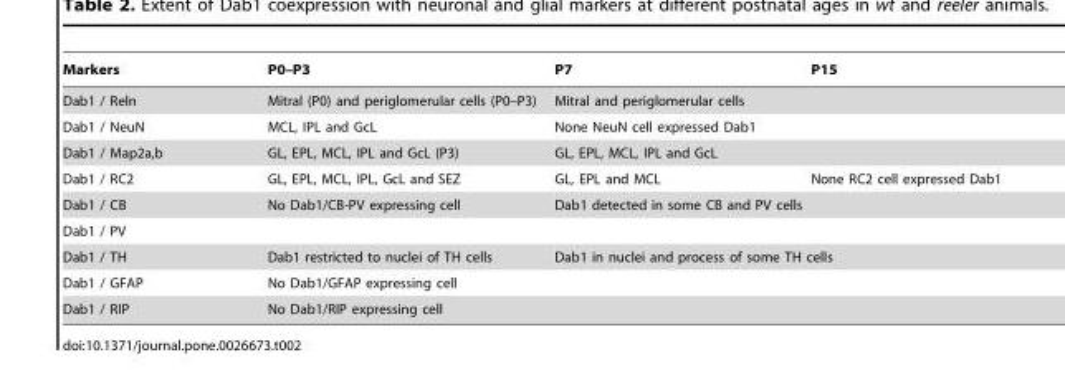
<table><thead><tr><td>Markers</td><td>P0–P3</td><td>P7</td><td>P15</td></tr></thead><tbody><tr><td>Dab1 / Reln</td><td>Mitral (P0) and periglomerular cells (P0–P3)</td><td colspan="2">Mitral and periglomerular cells</td></tr><tr><td>Dab1 / NeuN</td><td>MCL, IPL and GcL</td><td colspan="2">None NeuN cell expressed Dab1</td></tr><tr><td>Dab1 / Map2a,b</td><td>GL, EPL, MCL, IPL and GcL (P3)</td><td colspan="2">GL, EPL, MCL, IPL and GcL</td></tr><tr><td>Dab1 / RC2</td><td>GL, EPL, MCL, IPL, GcL and SEZ</td><td>GL, EPL and MCL</td><td>None RC2 cell expressed Dab1</td></tr><tr><td>Dab1 / CB</td><td>No Dab1/CB-PV expressing cell</td><td colspan="2">Dab1 detected in some CB and PV cells</td></tr><tr><td colspan="4">Dab1 / PV</td></tr><tr><td>Dab1 / TH</td><td>Dab1 restricted to nuclei of TH cells</td><td colspan="2">Dab1 in nuclei and process of some TH cells</td></tr><tr><td>Dab1 / GFAP</td><td colspan="3">No Dab1/GFAP expressing cell</td></tr><tr><td>Dab1 / RIP</td><td colspan="3">No Dab1/RIP expressing cell</td></tr></tbody></table>